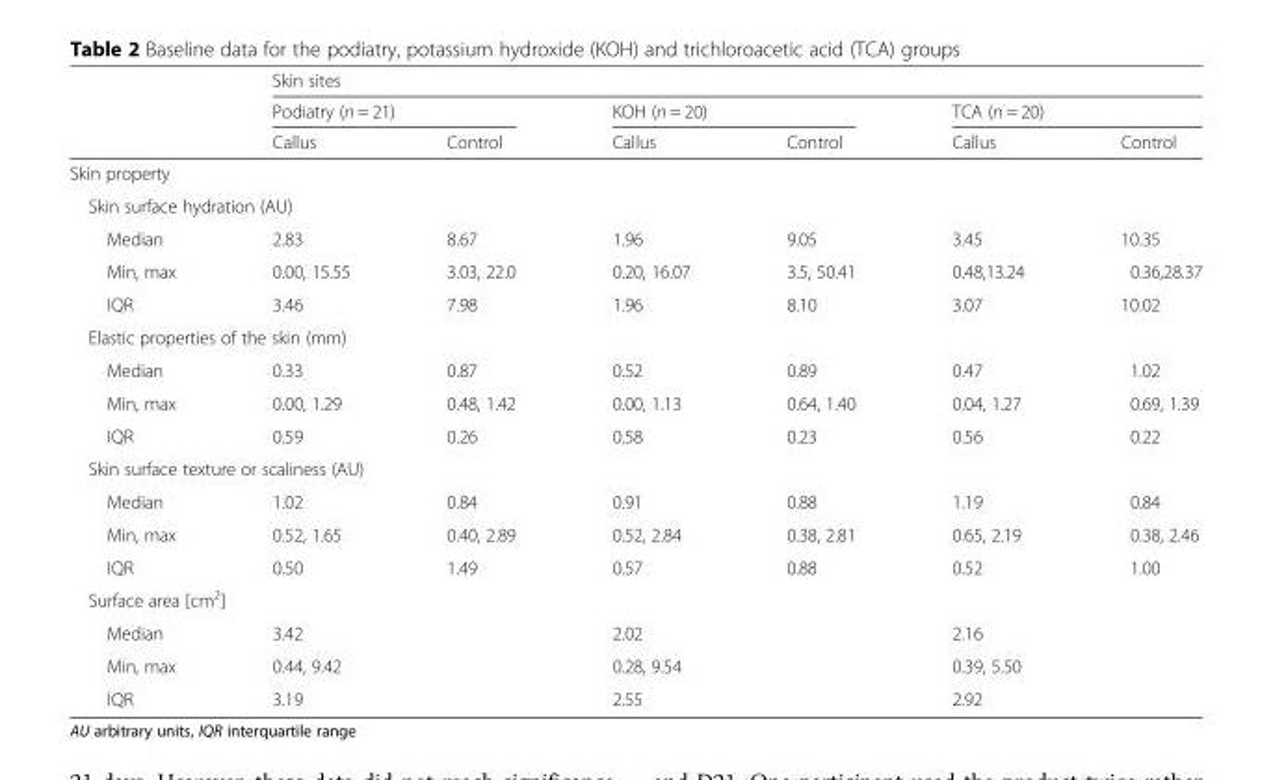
<table><thead><tr><td rowspan="3"></td><td colspan="6">Skin sites</td></tr><tr><td colspan="2">Podiatry (n = 21)</td><td colspan="2">KOH (n = 20)</td><td colspan="2">TCA (n = 20)</td></tr><tr><td>Callus</td><td>Control</td><td>Callus</td><td>Control</td><td>Callus</td><td>Control</td></tr></thead><tbody><tr><td colspan="7">Skin property</td></tr><tr><td colspan="7">Skin surface hydration (AU)</td></tr><tr><td>Median</td><td>2.83</td><td>8.67</td><td>1.96</td><td>9.05</td><td>3.45</td><td>10.35</td></tr><tr><td>Min, max</td><td>0.00, 15.55</td><td>3.03, 22.0</td><td>0.20, 16.07</td><td>3.5, 50.41</td><td>0.48,13.24</td><td>0.36,28.37</td></tr><tr><td>IQR</td><td>3.46</td><td>7.98</td><td>1.96</td><td>8.10</td><td>3.07</td><td>10.02</td></tr><tr><td colspan="7">Elastic properties of the skin (mm)</td></tr><tr><td>Median</td><td>0.33</td><td>0.87</td><td>0.52</td><td>0.89</td><td>0.47</td><td>1.02</td></tr><tr><td>Min, max</td><td>0.00, 1.29</td><td>0.48, 1.42</td><td>0.00, 1.13</td><td>0.64, 1.40</td><td>0.04, 1.27</td><td>0.69, 1.39</td></tr><tr><td>IQR</td><td>0.59</td><td>0.26</td><td>0.58</td><td>0.23</td><td>0.56</td><td>0.22</td></tr><tr><td colspan="7">Skin surface texture or scaliness (AU)</td></tr><tr><td>Median</td><td>1.02</td><td>0.84</td><td>0.91</td><td>0.88</td><td>1.19</td><td>0.84</td></tr><tr><td>Min, max</td><td>0.52, 1.65</td><td>0.40, 2.89</td><td>0.52, 2.84</td><td>0.38, 2.81</td><td>0.65, 2.19</td><td>0.38, 2.46</td></tr><tr><td>IQR</td><td>0.50</td><td>1.49</td><td>0.57</td><td>0.88</td><td>0.52</td><td>1.00</td></tr><tr><td colspan="7">Surface area [cm<sup>2</sup>]</td></tr><tr><td>Median</td><td>3.42</td><td></td><td>2.02</td><td></td><td>2.16</td><td></td></tr><tr><td>Min, max</td><td>0.44, 9.42</td><td></td><td>0.28, 9.54</td><td></td><td>0.39, 5.50</td><td></td></tr><tr><td>IQR</td><td>3.19</td><td></td><td>2.55</td><td></td><td>2.92</td><td></td></tr></tbody></table>